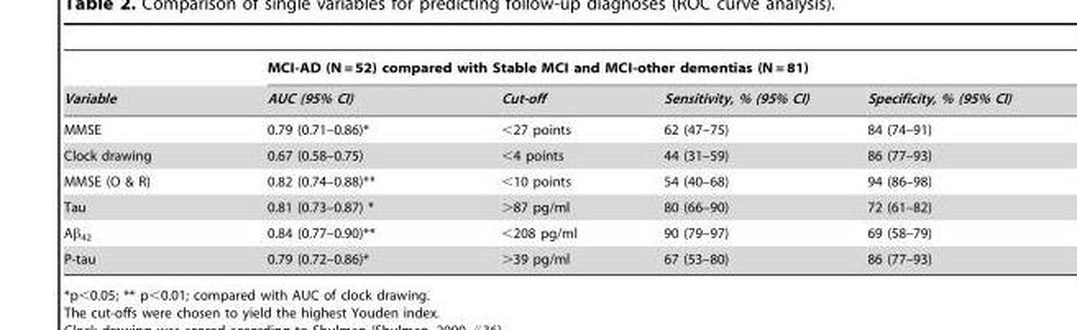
<table><thead><tr><td rowspan="2">Variable</td><td colspan="4">MCI-AD (N = 52) compared with Stable MCI and MCI-other dementias (N = 81)</td></tr><tr><td>AUC (95% CI)</td><td>Cut-off</td><td>Sensitivity, % (95% CI)</td><td>Specificity, % (95% CI)</td></tr></thead><tbody><tr><td>MMSE</td><td>0.79 (0.71–0.86)*</td><td>&lt;27 points</td><td>62 (47–75)</td><td>84 (74–91)</td></tr><tr><td>Clock drawing</td><td>0.67 (0.58–0.75)</td><td>&lt;4 points</td><td>44 (31–59)</td><td>86 (77–93)</td></tr><tr><td>MMSE (O &amp; R)</td><td>0.82 (0.74–0.88)**</td><td>&lt;10 points</td><td>54 (40–68)</td><td>94 (86–98)</td></tr><tr><td>Tau</td><td>0.81 (0.73–0.87) *</td><td>&gt;87 pg/ml</td><td>80 (66–90)</td><td>72 (61–82)</td></tr><tr><td>Aβ<sub>42</sub></td><td>0.84 (0.77–0.90)**</td><td>&lt;208 pg/ml</td><td>90 (79–97)</td><td>69 (58–79)</td></tr><tr><td>P-tau</td><td>0.79 (0.72–0.86)*</td><td>&gt;39 pg/ml</td><td>67 (53–80)</td><td>86 (77–93)</td></tr></tbody></table>